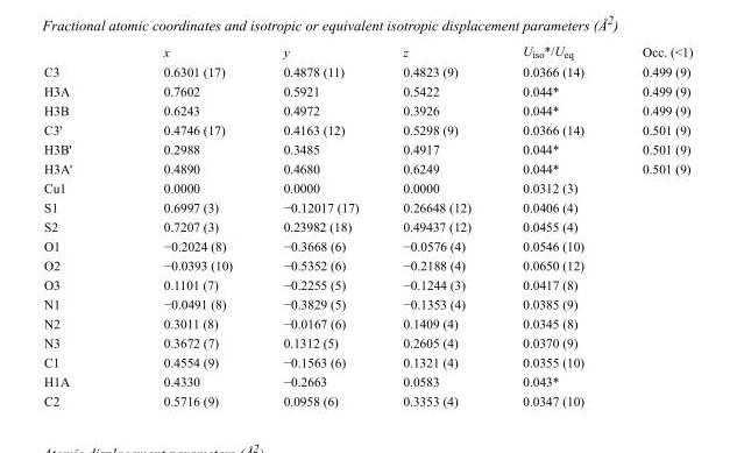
<table><thead><tr><td></td><td>x</td><td>y</td><td>z</td><td>U<sub>iso</sub>*/U<sub>eq</sub></td><td>Occ. (&lt;1)</td></tr></thead><tbody><tr><td>C3</td><td>0.6301 (17)</td><td>0.4878 (11)</td><td>0.4823 (9)</td><td>0.0366 (14)</td><td>0.499 (9)</td></tr><tr><td>H3A</td><td>0.7602</td><td>0.5921</td><td>0.5422</td><td>0.044*</td><td>0.499 (9)</td></tr><tr><td>H3B</td><td>0.6243</td><td>0.4972</td><td>0.3926</td><td>0.044*</td><td>0.499 (9)</td></tr><tr><td>C3&#x27;</td><td>0.4746 (17)</td><td>0.4163 (12)</td><td>0.5298 (9)</td><td>0.0366 (14)</td><td>0.501 (9)</td></tr><tr><td>H3B&#x27;</td><td>0.2988</td><td>0.3485</td><td>0.4917</td><td>0.044*</td><td>0.501 (9)</td></tr><tr><td>H3A&#x27;</td><td>0.4890</td><td>0.4680</td><td>0.6249</td><td>0.044*</td><td>0.501 (9)</td></tr><tr><td>Cu1</td><td>0.0000</td><td>0.0000</td><td>0.0000</td><td>0.0312 (3)</td><td></td></tr><tr><td>S1</td><td>0.6997 (3)</td><td>−0.12017 (17)</td><td>0.26648 (12)</td><td>0.0406 (4)</td><td></td></tr><tr><td>S2</td><td>0.7207 (3)</td><td>0.23982 (18)</td><td>0.49437 (12)</td><td>0.0455 (4)</td><td></td></tr><tr><td>O1</td><td>−0.2024 (8)</td><td>−0.3668 (6)</td><td>−0.0576 (4)</td><td>0.0546 (10)</td><td></td></tr><tr><td>O2</td><td>−0.0393 (10)</td><td>−0.5352 (6)</td><td>−0.2188 (4)</td><td>0.0650 (12)</td><td></td></tr><tr><td>O3</td><td>0.1101 (7)</td><td>−0.2255 (5)</td><td>−0.1244 (3)</td><td>0.0417 (8)</td><td></td></tr><tr><td>N1</td><td>−0.0491 (8)</td><td>−0.3829 (5)</td><td>−0.1353 (4)</td><td>0.0385 (9)</td><td></td></tr><tr><td>N2</td><td>0.3011 (8)</td><td>−0.0167 (6)</td><td>0.1409 (4)</td><td>0.0345 (8)</td><td></td></tr><tr><td>N3</td><td>0.3672 (7)</td><td>0.1312 (5)</td><td>0.2605 (4)</td><td>0.0370 (9)</td><td></td></tr><tr><td>C1</td><td>0.4554 (9)</td><td>−0.1563 (6)</td><td>0.1321 (4)</td><td>0.0355 (10)</td><td></td></tr><tr><td>H1A</td><td>0.4330</td><td>−0.2663</td><td>0.0583</td><td>0.043*</td><td></td></tr><tr><td>C2</td><td>0.5716 (9)</td><td>0.0958 (6)</td><td>0.3353 (4)</td><td>0.0347 (10)</td><td></td></tr></tbody></table>